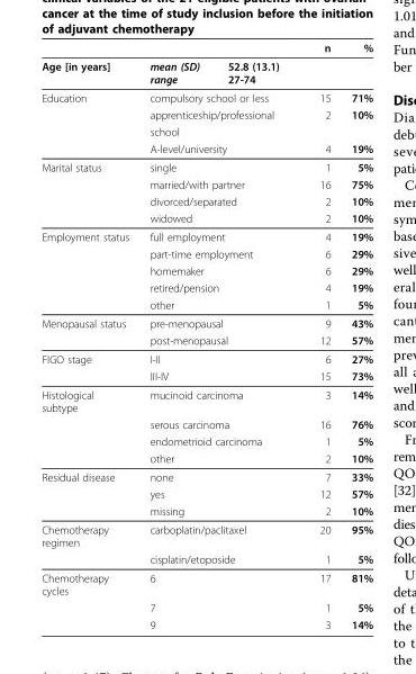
<table><thead><tr><td></td><td></td><td></td><td>n</td><td>%</td></tr></thead><tbody><tr><td>Age [in years]</td><td>mean (SD) range</td><td>52.8 (13.1) 27-74</td><td></td><td></td></tr><tr><td rowspan="4">Education</td><td colspan="2">compulsory school or less</td><td>15</td><td>71%</td></tr><tr><td colspan="2">apprenticeship/professional</td><td>2</td><td>10%</td></tr><tr><td colspan="2">school</td><td></td><td></td></tr><tr><td colspan="2">A-level/university</td><td>4</td><td>19%</td></tr><tr><td rowspan="4">Marital status</td><td colspan="2">single</td><td>1</td><td>5%</td></tr><tr><td colspan="2">married/with partner</td><td>16</td><td>75%</td></tr><tr><td colspan="2">divorced/separated</td><td>2</td><td>10%</td></tr><tr><td colspan="2">widowed</td><td>2</td><td>10%</td></tr><tr><td rowspan="5">Employment status</td><td colspan="2">full employment</td><td>4</td><td>19%</td></tr><tr><td colspan="2">part-time employment</td><td>6</td><td>29%</td></tr><tr><td colspan="2">homemaker</td><td>6</td><td>29%</td></tr><tr><td colspan="2">retired/pension</td><td>4</td><td>19%</td></tr><tr><td colspan="2">other</td><td>1</td><td>5%</td></tr><tr><td rowspan="2">Menopausal status</td><td colspan="2">pre-menopausal</td><td>9</td><td>43%</td></tr><tr><td colspan="2">post-menopausal</td><td>12</td><td>57%</td></tr><tr><td rowspan="2">FIGO stage</td><td colspan="2">I-II</td><td>6</td><td>27%</td></tr><tr><td colspan="2">III-IV</td><td>15</td><td>73%</td></tr><tr><td rowspan="4">Histological subtype</td><td colspan="2">mucinoid carcinoma</td><td>3</td><td>14%</td></tr><tr><td colspan="2">serous carcinoma</td><td>16</td><td>76%</td></tr><tr><td colspan="2">endometrioid carcinoma</td><td>1</td><td>5%</td></tr><tr><td colspan="2">other</td><td>2</td><td>10%</td></tr><tr><td rowspan="3">Residual disease</td><td colspan="2">none</td><td>7</td><td>33%</td></tr><tr><td colspan="2">yes</td><td>12</td><td>57%</td></tr><tr><td colspan="2">missing</td><td>2</td><td>10%</td></tr><tr><td rowspan="2">Chemotherapy regimen</td><td colspan="2">carboplatin/paclitaxel</td><td>20</td><td>95%</td></tr><tr><td colspan="2">cisplatin/etoposide</td><td>1</td><td>5%</td></tr><tr><td rowspan="3">Chemotherapy cycles</td><td colspan="2">6</td><td>17</td><td>81%</td></tr><tr><td colspan="2">7</td><td>1</td><td>5%</td></tr><tr><td colspan="2">9</td><td>3</td><td>14%</td></tr></tbody></table>